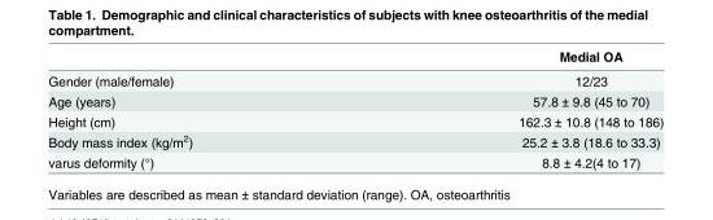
<table><thead><tr><td></td><td>Medial OA</td></tr></thead><tbody><tr><td>Gender (male/female)</td><td>12/23</td></tr><tr><td>Age (years)</td><td>57.8 ± 9.8 (45 to 70)</td></tr><tr><td>Height (cm)</td><td>162.3 ± 10.8 (148 to 186)</td></tr><tr><td>Body mass index (kg/m<sup>2</sup>)</td><td>25.2 ± 3.8 (18.6 to 33.3)</td></tr><tr><td>varus deformity (°)</td><td>8.8 ± 4.2(4 to 17)</td></tr></tbody></table>